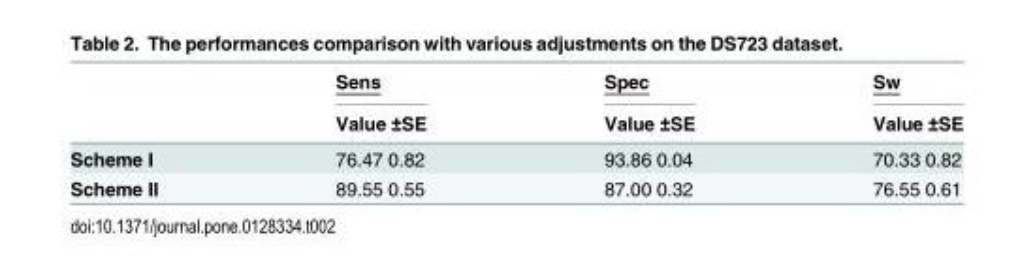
<table><thead><tr><td rowspan="2"></td><td rowspan="2">Sens Value ±SE</td><td rowspan="2">Spec Value ±SE</td><td rowspan="2">Sw Value ±SE</td></tr><tr></tr></thead><tbody><tr><td>Scheme I</td><td>76.47 0.82</td><td>93.86 0.04</td><td>70.33 0.82</td></tr><tr><td>Scheme II</td><td>89.55 0.55</td><td>87.00 0.32</td><td>76.55 0.61</td></tr></tbody></table>